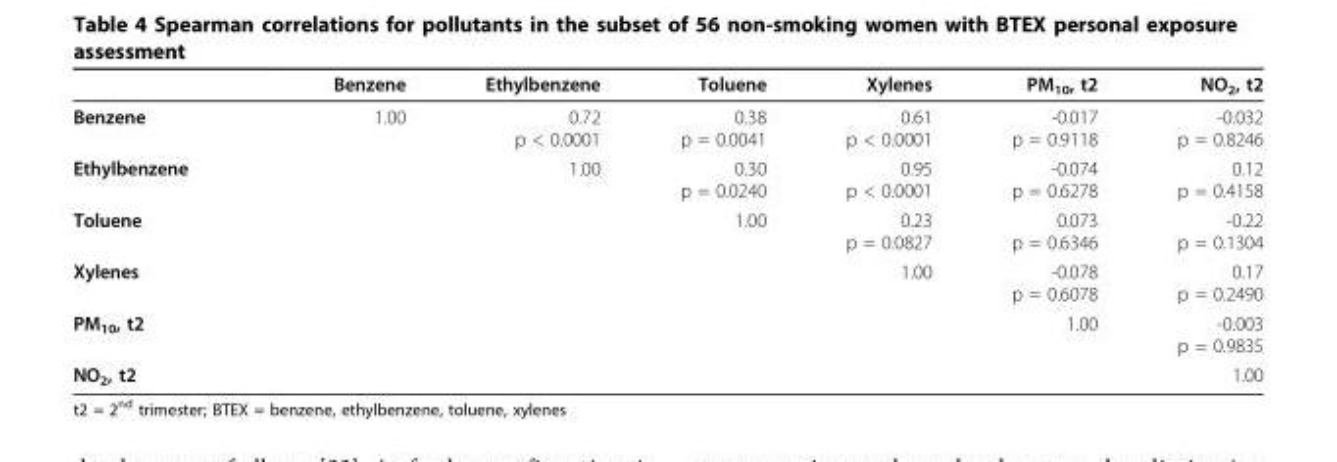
<table><thead><tr><td></td><td>Benzene</td><td>Ethylbenzene</td><td>Toluene</td><td>Xylenes</td><td>PM<sub>10</sub>, t2</td><td>NO<sub>2</sub>, t2</td></tr></thead><tbody><tr><td>Benzene</td><td>1.00</td><td>0.72 p &lt; 0.0001</td><td>0.38 p = 0.0041</td><td>0.61 p &lt; 0.0001</td><td>-0.017 p = 0.9118</td><td>-0.032 p = 0.8246</td></tr><tr><td>Ethylbenzene</td><td></td><td>1.00</td><td>0.30 p = 0.0240</td><td>0.95 p &lt; 0.0001</td><td>-0.074 p = 0.6278</td><td>0.12 p = 0.4158</td></tr><tr><td>Toluene</td><td></td><td></td><td>1.00</td><td>0.23 p = 0.0827</td><td>0.073 p = 0.6346</td><td>-0.22 p = 0.1304</td></tr><tr><td>Xylenes</td><td></td><td></td><td></td><td>1.00</td><td>-0.078 p = 0.6078</td><td>0.17 p = 0.2490</td></tr><tr><td>PM<sub>10</sub>, t2</td><td></td><td></td><td></td><td></td><td>1.00</td><td>-0.003 p = 0.9835</td></tr><tr><td>NO<sub>2</sub>, t2</td><td></td><td></td><td></td><td></td><td></td><td>1.00</td></tr></tbody></table>